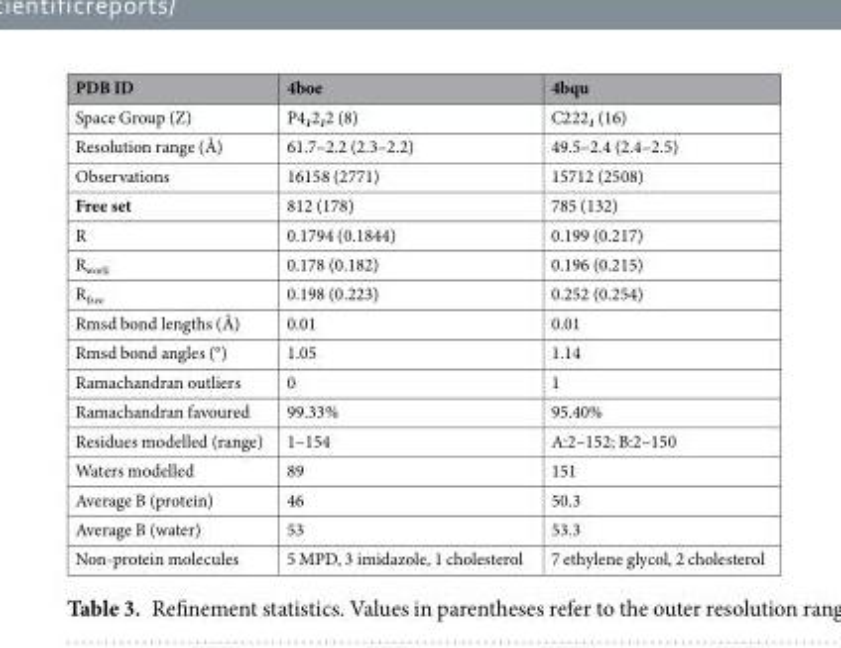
<table><thead><tr><td>PDB ID</td><td>4boe</td><td>4bqu</td></tr></thead><tbody><tr><td>Space Group (Z)</td><td>P4<sub>1</sub>2<sub>1</sub>2 (8)</td><td>C222<sub>1</sub> (16)</td></tr><tr><td>Resolution range (Å)</td><td>61.7–2.2 (2.3–2.2)</td><td>49.5–2.4 (2.4–2.5)</td></tr><tr><td>Observations</td><td>16158 (2771)</td><td>15712 (2508)</td></tr><tr><td>Free set</td><td>812 (178)</td><td>785 (132)</td></tr><tr><td>R</td><td>0.1794 (0.1844)</td><td>0.199 (0.217)</td></tr><tr><td>R<sub>work</sub></td><td>0.178 (0.182)</td><td>0.196 (0.215)</td></tr><tr><td>R<sub>free</sub></td><td>0.198 (0.223)</td><td>0.252 (0.254)</td></tr><tr><td>Rmsd bond lengths (Å)</td><td>0.01</td><td>0.01</td></tr><tr><td>Rmsd bond angles (°)</td><td>1.05</td><td>1.14</td></tr><tr><td>Ramachandran outliers</td><td>0</td><td>1</td></tr><tr><td>Ramachandran favoured</td><td>99.33%</td><td>95.40%</td></tr><tr><td>Residues modelled (range)</td><td>1–154</td><td>A:2–152; B:2–150</td></tr><tr><td>Waters modelled</td><td>89</td><td>151</td></tr><tr><td>Average B (protein)</td><td>46</td><td>50.3</td></tr><tr><td>Average B (water)</td><td>53</td><td>53.3</td></tr><tr><td>Non-protein molecules</td><td>5 MPD, 3 imidazole, 1 cholesterol</td><td>7 ethylene glycol, 2 cholesterol</td></tr></tbody></table>